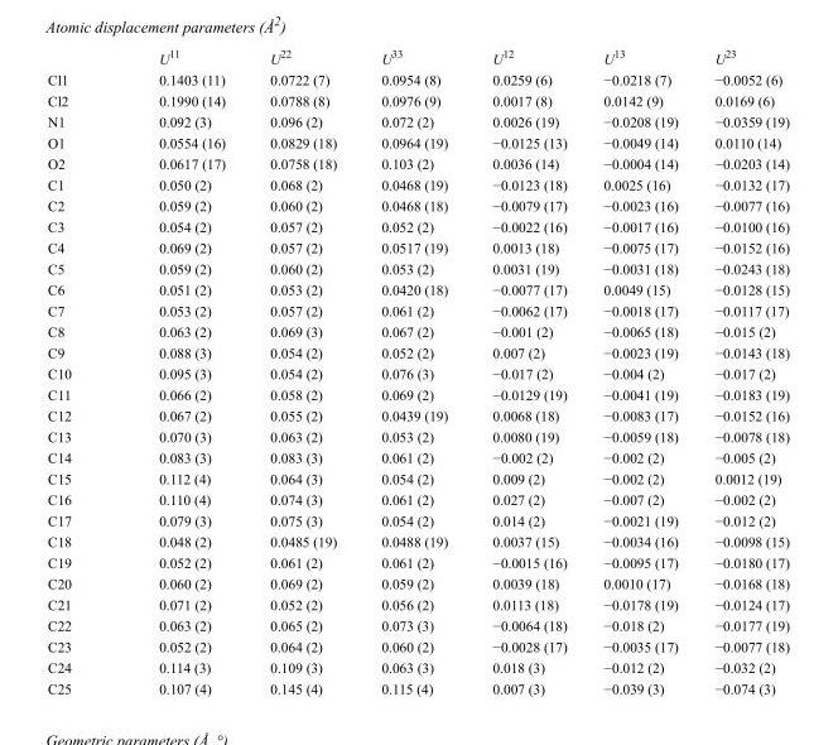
<table><thead><tr><td></td><td>U<sup>11</sup></td><td>U<sup>22</sup></td><td>U<sup>33</sup></td><td>U<sup>12</sup></td><td>U<sup>13</sup></td><td>U<sup>23</sup></td></tr></thead><tbody><tr><td>Cl1</td><td>0.1403 (11)</td><td>0.0722 (7)</td><td>0.0954 (8)</td><td>0.0259 (6)</td><td>−0.0218 (7)</td><td>−0.0052 (6)</td></tr><tr><td>Cl2</td><td>0.1990 (14)</td><td>0.0788 (8)</td><td>0.0976 (9)</td><td>0.0017 (8)</td><td>0.0142 (9)</td><td>0.0169 (6)</td></tr><tr><td>N1</td><td>0.092 (3)</td><td>0.096 (2)</td><td>0.072 (2)</td><td>0.0026 (19)</td><td>−0.0208 (19)</td><td>−0.0359 (19)</td></tr><tr><td>O1</td><td>0.0554 (16)</td><td>0.0829 (18)</td><td>0.0964 (19)</td><td>−0.0125 (13)</td><td>−0.0049 (14)</td><td>0.0110 (14)</td></tr><tr><td>O2</td><td>0.0617 (17)</td><td>0.0758 (18)</td><td>0.103 (2)</td><td>0.0036 (14)</td><td>−0.0004 (14)</td><td>−0.0203 (14)</td></tr><tr><td>C1</td><td>0.050 (2)</td><td>0.068 (2)</td><td>0.0468 (19)</td><td>−0.0123 (18)</td><td>0.0025 (16)</td><td>−0.0132 (17)</td></tr><tr><td>C2</td><td>0.059 (2)</td><td>0.060 (2)</td><td>0.0468 (18)</td><td>−0.0079 (17)</td><td>−0.0023 (16)</td><td>−0.0077 (16)</td></tr><tr><td>C3</td><td>0.054 (2)</td><td>0.057 (2)</td><td>0.052 (2)</td><td>−0.0022 (16)</td><td>−0.0017 (16)</td><td>−0.0100 (16)</td></tr><tr><td>C4</td><td>0.069 (2)</td><td>0.057 (2)</td><td>0.0517 (19)</td><td>0.0013 (18)</td><td>−0.0075 (17)</td><td>−0.0152 (16)</td></tr><tr><td>C5</td><td>0.059 (2)</td><td>0.060 (2)</td><td>0.053 (2)</td><td>0.0031 (19)</td><td>−0.0031 (18)</td><td>−0.0243 (18)</td></tr><tr><td>C6</td><td>0.051 (2)</td><td>0.053 (2)</td><td>0.0420 (18)</td><td>−0.0077 (17)</td><td>0.0049 (15)</td><td>−0.0128 (15)</td></tr><tr><td>C7</td><td>0.053 (2)</td><td>0.057 (2)</td><td>0.061 (2)</td><td>−0.0062 (17)</td><td>−0.0018 (17)</td><td>−0.0117 (17)</td></tr><tr><td>C8</td><td>0.063 (2)</td><td>0.069 (3)</td><td>0.067 (2)</td><td>−0.001 (2)</td><td>−0.0065 (18)</td><td>−0.015 (2)</td></tr><tr><td>C9</td><td>0.088 (3)</td><td>0.054 (2)</td><td>0.052 (2)</td><td>0.007 (2)</td><td>−0.0023 (19)</td><td>−0.0143 (18)</td></tr><tr><td>C10</td><td>0.095 (3)</td><td>0.054 (2)</td><td>0.076 (3)</td><td>−0.017 (2)</td><td>−0.004 (2)</td><td>−0.017 (2)</td></tr><tr><td>C11</td><td>0.066 (2)</td><td>0.058 (2)</td><td>0.069 (2)</td><td>−0.0129 (19)</td><td>−0.0041 (19)</td><td>−0.0183 (19)</td></tr><tr><td>C12</td><td>0.067 (2)</td><td>0.055 (2)</td><td>0.0439 (19)</td><td>0.0068 (18)</td><td>−0.0083 (17)</td><td>−0.0152 (16)</td></tr><tr><td>C13</td><td>0.070 (3)</td><td>0.063 (2)</td><td>0.053 (2)</td><td>0.0080 (19)</td><td>−0.0059 (18)</td><td>−0.0078 (18)</td></tr><tr><td>C14</td><td>0.083 (3)</td><td>0.083 (3)</td><td>0.061 (2)</td><td>−0.002 (2)</td><td>−0.002 (2)</td><td>−0.005 (2)</td></tr><tr><td>C15</td><td>0.112 (4)</td><td>0.064 (3)</td><td>0.054 (2)</td><td>0.009 (2)</td><td>−0.002 (2)</td><td>0.0012 (19)</td></tr><tr><td>C16</td><td>0.110 (4)</td><td>0.074 (3)</td><td>0.061 (2)</td><td>0.027 (2)</td><td>−0.007 (2)</td><td>−0.002 (2)</td></tr><tr><td>C17</td><td>0.079 (3)</td><td>0.075 (3)</td><td>0.054 (2)</td><td>0.014 (2)</td><td>−0.0021 (19)</td><td>−0.012 (2)</td></tr><tr><td>C18</td><td>0.048 (2)</td><td>0.0485 (19)</td><td>0.0488 (19)</td><td>0.0037 (15)</td><td>−0.0034 (16)</td><td>−0.0098 (15)</td></tr><tr><td>C19</td><td>0.052 (2)</td><td>0.061 (2)</td><td>0.061 (2)</td><td>−0.0015 (16)</td><td>−0.0095 (17)</td><td>−0.0180 (17)</td></tr><tr><td>C20</td><td>0.060 (2)</td><td>0.069 (2)</td><td>0.059 (2)</td><td>0.0039 (18)</td><td>0.0010 (17)</td><td>−0.0168 (18)</td></tr><tr><td>C21</td><td>0.071 (2)</td><td>0.052 (2)</td><td>0.056 (2)</td><td>0.0113 (18)</td><td>−0.0178 (19)</td><td>−0.0124 (17)</td></tr><tr><td>C22</td><td>0.063 (2)</td><td>0.065 (2)</td><td>0.073 (3)</td><td>−0.0064 (18)</td><td>−0.018 (2)</td><td>−0.0177 (19)</td></tr><tr><td>C23</td><td>0.052 (2)</td><td>0.064 (2)</td><td>0.060 (2)</td><td>−0.0028 (17)</td><td>−0.0035 (17)</td><td>−0.0077 (18)</td></tr><tr><td>C24</td><td>0.114 (3)</td><td>0.109 (3)</td><td>0.063 (3)</td><td>0.018 (3)</td><td>−0.012 (2)</td><td>−0.032 (2)</td></tr><tr><td>C25</td><td>0.107 (4)</td><td>0.145 (4)</td><td>0.115 (4)</td><td>0.007 (3)</td><td>−0.039 (3)</td><td>−0.074 (3)</td></tr></tbody></table>